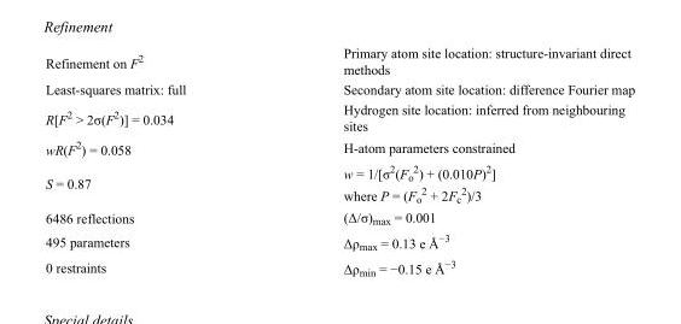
<table><tbody><tr><td>Refinement on F<sup>2</sup></td><td>Primary atom site location: structure-invariant direct methods</td></tr><tr><td>Least-squares matrix: full</td><td>Secondary atom site location: difference Fourier map</td></tr><tr><td>R[F<sup>2</sup> &gt; 2σ(F<sup>2</sup>)] = 0.034</td><td>Hydrogen site location: inferred from neighbouring sites</td></tr><tr><td>wR(F<sup>2</sup>) = 0.058</td><td>H-atom parameters constrained</td></tr><tr><td>S = 0.87</td><td>w = 1/[σ<sup>2</sup>(F<sub>o</sub> <sup>2</sup>) + (0.010P)<sup>2</sup>] where P = (F<sub>o</sub> <sup>2</sup> + 2F<sub>c</sub> <sup>2</sup>)/3</td></tr><tr><td>6486 reflections</td><td>(Δ/σ)<sub>max</sub> = 0.001</td></tr><tr><td>495 parameters</td><td>Δρ<sub>max</sub> = 0.13 e Å<sup>−3</sup></td></tr><tr><td>0 restraints</td><td>Δρ<sub>min</sub> = −0.15 e Å<sup>−3</sup></td></tr></tbody></table>